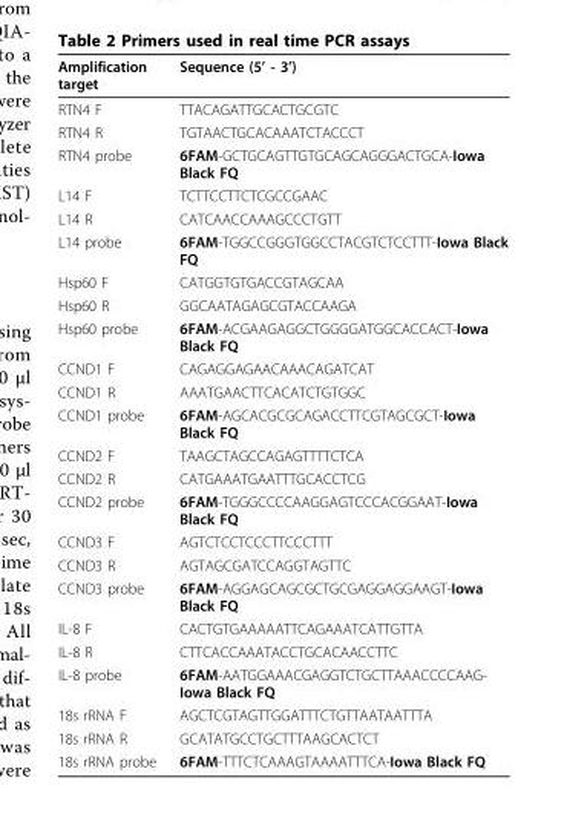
<table><thead><tr><td>Amplification target</td><td>Sequence (5’ - 3’)</td></tr></thead><tbody><tr><td>RTN4 F</td><td>TTACAGATTGCACTGCGTC</td></tr><tr><td>RTN4 R</td><td>TGTAACTGCACAAATCTACCCT</td></tr><tr><td>RTN4 probe</td><td>6FAM-GCTGCAGTTGTGCAGCAGGGACTGCA-Iowa Black FQ</td></tr><tr><td>L14 F</td><td>TCTTCCTTCTCGCCGAAC</td></tr><tr><td>L14 R</td><td>CATCAACCAAAGCCCTGTT</td></tr><tr><td>L14 probe</td><td>6FAM-TGGCCGGGTGGCCTACGTCTCCTTT-Iowa Black FQ</td></tr><tr><td>Hsp60 F</td><td>CATGGTGTGACCGTAGCAA</td></tr><tr><td>Hsp60 R</td><td>GGCAATAGAGCGTACCAAGA</td></tr><tr><td>Hsp60 probe</td><td>6FAM-ACGAAGAGGCTGGGGATGGCACCACT-Iowa Black FQ</td></tr><tr><td>CCND1 F</td><td>CAGAGGAGAACAAACAGATCAT</td></tr><tr><td>CCND1 R</td><td>AAATGAACTTCACATCTGTGGC</td></tr><tr><td>CCND1 probe</td><td>6FAM-AGCACGCGCAGACCTTCGTAGCGCT-Iowa Black FQ</td></tr><tr><td>CCND2 F</td><td>TAAGCTAGCCAGAGTTTTCTCA</td></tr><tr><td>CCND2 R</td><td>CATGAAATGAATTTGCACCTCG</td></tr><tr><td>CCND2 probe</td><td>6FAM-TGGGCCCCAAGGAGTCCCACGGAAT-Iowa Black FQ</td></tr><tr><td>CCND3 F</td><td>AGTCTCCTCCCTTCCCTTT</td></tr><tr><td>CCND3 R</td><td>AGTAGCGATCCAGGTAGTTC</td></tr><tr><td>CCND3 probe</td><td>6FAM-AGGAGCAGCGCTGCGAGGAGGAAGT-Iowa Black FQ</td></tr><tr><td>IL-8 F</td><td>CACTGTGAAAAATTCAGAAATCATTGTTA</td></tr><tr><td>IL-8 R</td><td>CTTCACCAAATACCTGCACAACCTTC</td></tr><tr><td>IL-8 probe</td><td>6FAM-AATGGAAACGAGGTCTGCTTAAACCCCAAG- Iowa Black FQ</td></tr><tr><td>18s rRNA F</td><td>AGCTCGTAGTTGGATTTCTGTTAATAATTTA</td></tr><tr><td>18s rRNA R</td><td>GCATATGCCTGCTTTAAGCACTCT</td></tr><tr><td>18s rRNA probe</td><td>6FAM-TTTCTCAAAGTAAAATTTCA-Iowa Black FQ</td></tr></tbody></table>